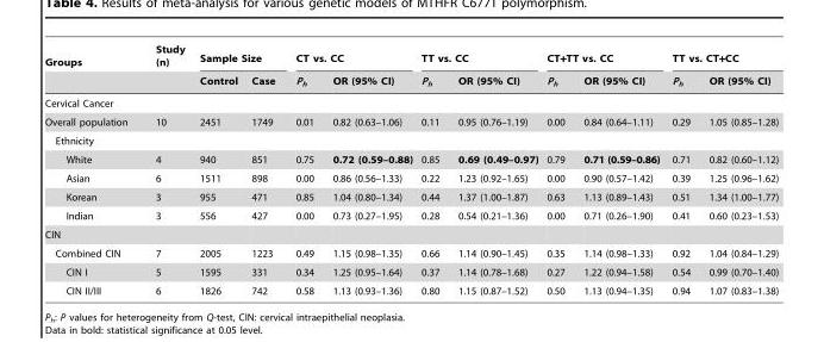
<table><thead><tr><td rowspan="2">Groups</td><td rowspan="2">Study (n)</td><td colspan="2">Sample Size</td><td colspan="2">CT vs. CC</td><td colspan="2">TT vs. CC</td><td colspan="2">CT+TT vs. CC</td><td colspan="2">TT vs. CT+CC</td></tr><tr><td>Control</td><td>Case</td><td>P<sub>h</sub></td><td>OR (95% CI)</td><td>P<sub>h</sub></td><td>OR (95% CI)</td><td>P<sub>h</sub></td><td>OR (95% CI)</td><td>P<sub>h</sub></td><td>OR (95% CI)</td></tr></thead><tbody><tr><td colspan="12">Cervical Cancer</td></tr><tr><td>Overall population</td><td>10</td><td>2451</td><td>1749</td><td>0.01</td><td>0.82 (0.63–1.06)</td><td>0.11</td><td>0.95 (0.76–1.19)</td><td>0.00</td><td>0.84 (0.64–1.11)</td><td>0.29</td><td>1.05 (0.85–1.28)</td></tr><tr><td colspan="12">Ethnicity</td></tr><tr><td>White</td><td>4</td><td>940</td><td>851</td><td>0.75</td><td>0.72 (0.59–0.88)</td><td>0.85</td><td>0.69 (0.49–0.97)</td><td>0.79</td><td>0.71 (0.59–0.86)</td><td>0.71</td><td>0.82 (0.60–1.12)</td></tr><tr><td>Asian</td><td>6</td><td>1511</td><td>898</td><td>0.00</td><td>0.86 (0.56–1.33)</td><td>0.22</td><td>1.23 (0.92–1.65)</td><td>0.00</td><td>0.90 (0.57–1.42)</td><td>0.39</td><td>1.25 (0.96–1.62)</td></tr><tr><td>Korean</td><td>3</td><td>955</td><td>471</td><td>0.85</td><td>1.04 (0.80–1.34)</td><td>0.44</td><td>1.37 (1.00–1.87)</td><td>0.63</td><td>1.13 (0.89–1.43)</td><td>0.51</td><td>1.34 (1.00–1.77)</td></tr><tr><td>Indian</td><td>3</td><td>556</td><td>427</td><td>0.00</td><td>0.73 (0.27–1.95)</td><td>0.28</td><td>0.54 (0.21–1.36)</td><td>0.00</td><td>0.71 (0.26–1.90)</td><td>0.41</td><td>0.60 (0.23–1.53)</td></tr><tr><td colspan="12">CIN</td></tr><tr><td>Combined CIN</td><td>7</td><td>2005</td><td>1223</td><td>0.49</td><td>1.15 (0.98–1.35)</td><td>0.66</td><td>1.14 (0.90–1.45)</td><td>0.35</td><td>1.14 (0.98–1.33)</td><td>0.92</td><td>1.04 (0.84–1.29)</td></tr><tr><td>CIN I</td><td>5</td><td>1595</td><td>331</td><td>0.34</td><td>1.25 (0.95–1.64)</td><td>0.37</td><td>1.14 (0.78–1.68)</td><td>0.27</td><td>1.22 (0.94–1.58)</td><td>0.54</td><td>0.99 (0.70–1.40)</td></tr><tr><td>CIN II/III</td><td>6</td><td>1826</td><td>742</td><td>0.58</td><td>1.13 (0.93–1.36)</td><td>0.80</td><td>1.15 (0.87–1.52)</td><td>0.50</td><td>1.13 (0.94–1.35)</td><td>0.94</td><td>1.07 (0.83–1.38)</td></tr></tbody></table>